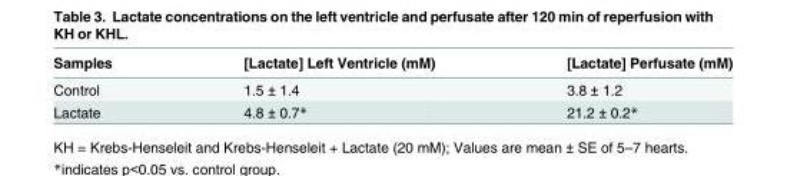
<table><thead><tr><td>Samples</td><td>[Lactate] Left Ventricle (mM)</td><td>[Lactate] Perfusate (mM)</td></tr></thead><tbody><tr><td>Control</td><td>1.5 ± 1.4</td><td>3.8 ± 1.2</td></tr><tr><td>Lactate</td><td>4.8 ± 0.7*</td><td>21.2 ± 0.2*</td></tr></tbody></table>